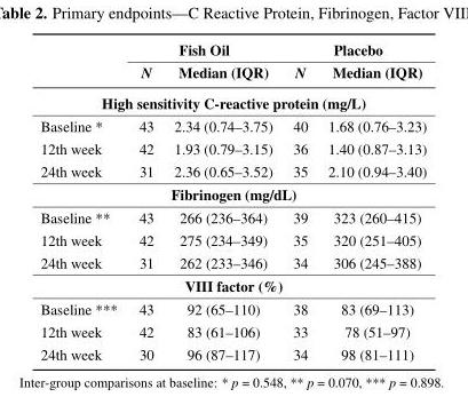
<table><thead><tr><td rowspan="2"></td><td colspan="2">Fish Oil</td><td colspan="2">Placebo</td></tr><tr><td>N</td><td>Median (IQR)</td><td>N</td><td>Median (IQR)</td></tr></thead><tbody><tr><td colspan="5">High sensitivity C-reactive protein (mg/L)</td></tr><tr><td>Baseline *</td><td>43</td><td>2.34 (0.74–3.75)</td><td>40</td><td>1.68 (0.76–3.23)</td></tr><tr><td>12th week</td><td>42</td><td>1.93 (0.79–3.15)</td><td>36</td><td>1.40 (0.87–3.13)</td></tr><tr><td>24th week</td><td>31</td><td>2.36 (0.65–3.52)</td><td>35</td><td>2.10 (0.94–3.40)</td></tr><tr><td colspan="5">Fibrinogen (mg/dL)</td></tr><tr><td>Baseline **</td><td>43</td><td>266 (236–364)</td><td>39</td><td>323 (260–415)</td></tr><tr><td>12th week</td><td>42</td><td>275 (234–349)</td><td>35</td><td>320 (251–405)</td></tr><tr><td>24th week</td><td>31</td><td>262 (233–346)</td><td>34</td><td>306 (245–388)</td></tr><tr><td colspan="5">VIII factor (%)</td></tr><tr><td>Baseline ***</td><td>43</td><td>92 (65–110)</td><td>38</td><td>83 (69–113)</td></tr><tr><td>12th week</td><td>42</td><td>83 (61–106)</td><td>33</td><td>78 (51–97)</td></tr><tr><td>24th week</td><td>30</td><td>96 (87–117)</td><td>34</td><td>98 (81–111)</td></tr></tbody></table>